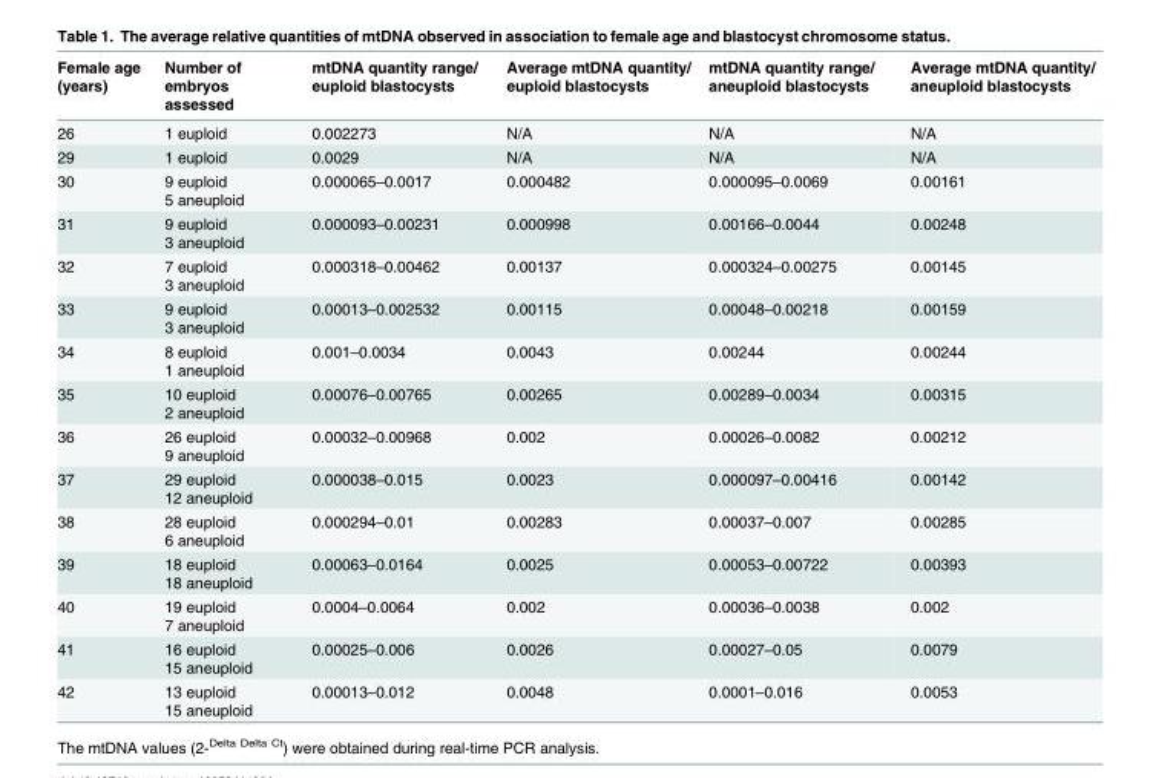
<table><thead><tr><td>Female age (years)</td><td>Number of embryos assessed</td><td>mtDNA quantity range/ euploid blastocysts</td><td>Average mtDNA quantity/ euploid blastocysts</td><td>mtDNA quantity range/ aneuploid blastocysts</td><td>Average mtDNA quantity/ aneuploid blastocysts</td></tr></thead><tbody><tr><td>26</td><td>1 euploid</td><td>0.002273</td><td>N/A</td><td>N/A</td><td>N/A</td></tr><tr><td>29</td><td>1 euploid</td><td>0.0029</td><td>N/A</td><td>N/A</td><td>N/A</td></tr><tr><td>30</td><td>9 euploid 5 aneuploid</td><td>0.000065–0.0017</td><td>0.000482</td><td>0.000095–0.0069</td><td>0.00161</td></tr><tr><td>31</td><td>9 euploid 3 aneuploid</td><td>0.000093–0.00231</td><td>0.000998</td><td>0.00166–0.0044</td><td>0.00248</td></tr><tr><td>32</td><td>7 euploid 3 aneuploid</td><td>0.000318–0.00462</td><td>0.00137</td><td>0.000324–0.00275</td><td>0.00145</td></tr><tr><td>33</td><td>9 euploid 3 aneuploid</td><td>0.00013–0.002532</td><td>0.00115</td><td>0.00048–0.00218</td><td>0.00159</td></tr><tr><td>34</td><td>8 euploid 1 aneuploid</td><td>0.001–0.0034</td><td>0.0043</td><td>0.00244</td><td>0.00244</td></tr><tr><td>35</td><td>10 euploid 2 aneuploid</td><td>0.00076–0.00765</td><td>0.00265</td><td>0.00289–0.0034</td><td>0.00315</td></tr><tr><td>36</td><td>26 euploid 9 aneuploid</td><td>0.00032–0.00968</td><td>0.002</td><td>0.00026–0.0082</td><td>0.00212</td></tr><tr><td>37</td><td>29 euploid 12 aneuploid</td><td>0.000038–0.015</td><td>0.0023</td><td>0.000097–0.00416</td><td>0.00142</td></tr><tr><td>38</td><td>28 euploid 6 aneuploid</td><td>0.000294–0.01</td><td>0.00283</td><td>0.00037–0.007</td><td>0.00285</td></tr><tr><td>39</td><td>18 euploid 18 aneuploid</td><td>0.00063–0.0164</td><td>0.0025</td><td>0.00053–0.00722</td><td>0.00393</td></tr><tr><td>40</td><td>19 euploid 7 aneuploid</td><td>0.0004–0.0064</td><td>0.002</td><td>0.00036–0.0038</td><td>0.002</td></tr><tr><td>41</td><td>16 euploid 15 aneuploid</td><td>0.00025–0.006</td><td>0.0026</td><td>0.00027–0.05</td><td>0.0079</td></tr><tr><td>42</td><td>13 euploid 15 aneuploid</td><td>0.00013–0.012</td><td>0.0048</td><td>0.0001–0.016</td><td>0.0053</td></tr></tbody></table>